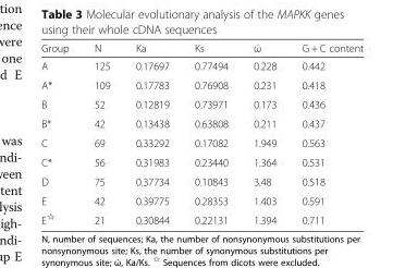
<table><thead><tr><td>Group</td><td>N</td><td>Ka</td><td>Ks</td><td>ώ</td><td>G + C content</td></tr></thead><tbody><tr><td>A</td><td>125</td><td>0.17697</td><td>0.77494</td><td>0.228</td><td>0.442</td></tr><tr><td>A*</td><td>109</td><td>0.17783</td><td>0.76908</td><td>0.231</td><td>0.418</td></tr><tr><td>B</td><td>52</td><td>0.12819</td><td>0.73971</td><td>0.173</td><td>0.436</td></tr><tr><td>B*</td><td>42</td><td>0.13438</td><td>0.63808</td><td>0.211</td><td>0.437</td></tr><tr><td>C</td><td>69</td><td>0.33292</td><td>0.17082</td><td>1.949</td><td>0.563</td></tr><tr><td>C*</td><td>56</td><td>0.31983</td><td>0.23440</td><td>1.364</td><td>0.531</td></tr><tr><td>D</td><td>75</td><td>0.37734</td><td>0.10843</td><td>3.48</td><td>0.518</td></tr><tr><td>E</td><td>42</td><td>0.39775</td><td>0.28353</td><td>1.403</td><td>0.591</td></tr><tr><td>E<sup>☆</sup></td><td>21</td><td>0.30844</td><td>0.22131</td><td>1.394</td><td>0.711</td></tr></tbody></table>